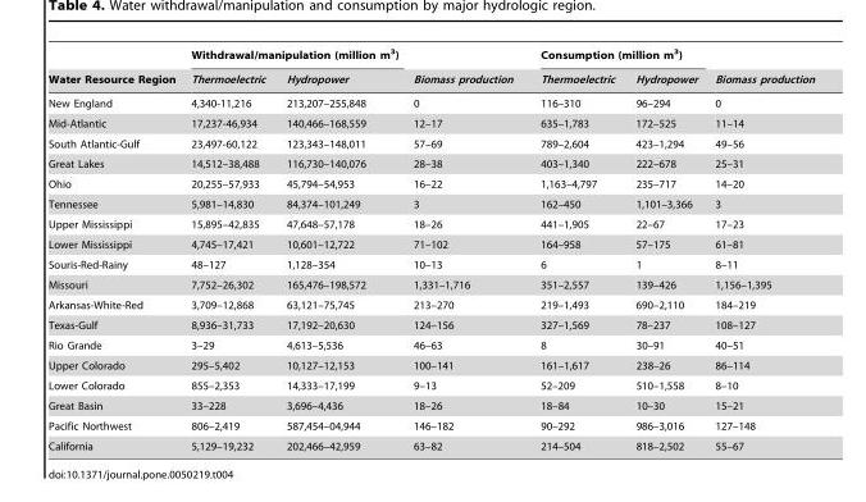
<table><thead><tr><td rowspan="2">Water Resource Region</td><td colspan="2">Withdrawal/manipulation (million m<sup>3</sup>)</td><td rowspan="2">Biomass production</td><td colspan="2">Consumption (million m<sup>3</sup>)</td><td rowspan="2">Biomass production</td></tr><tr><td>Thermoelectric</td><td>Hydropower</td><td>Thermoelectric</td><td>Hydropower</td></tr></thead><tbody><tr><td>New England</td><td>4,340-11,216</td><td>213,207–255,848</td><td>0</td><td>116–310</td><td>96–294</td><td>0</td></tr><tr><td>Mid-Atlantic</td><td>17,237-46,934</td><td>140,466–168,559</td><td>12–17</td><td>635–1,783</td><td>172–525</td><td>11–14</td></tr><tr><td>South Atlantic-Gulf</td><td>23,497-60,122</td><td>123,343–148,011</td><td>57–69</td><td>789–2,604</td><td>423–1,294</td><td>49–56</td></tr><tr><td>Great Lakes</td><td>14,512–38,488</td><td>116,730–140,076</td><td>28–38</td><td>403–1,340</td><td>222–678</td><td>25–31</td></tr><tr><td>Ohio</td><td>20,255–57,933</td><td>45,794–54,953</td><td>16–22</td><td>1,163–4,797</td><td>235–717</td><td>14–20</td></tr><tr><td>Tennessee</td><td>5,981–14,830</td><td>84,374–101,249</td><td>3</td><td>162–450</td><td>1,101–3,366</td><td>3</td></tr><tr><td>Upper Mississippi</td><td>15,895–42,835</td><td>47,648–57,178</td><td>18–26</td><td>441–1,905</td><td>22–67</td><td>17–23</td></tr><tr><td>Lower Mississippi</td><td>4,745–17,421</td><td>10,601–12,722</td><td>71–102</td><td>164–958</td><td>57–175</td><td>61–81</td></tr><tr><td>Souris-Red-Rainy</td><td>48–127</td><td>1,128–354</td><td>10–13</td><td>6</td><td>1</td><td>8–11</td></tr><tr><td>Missouri</td><td>7,752–26,302</td><td>165,476–198,572</td><td>1,331–1,716</td><td>351–2,557</td><td>139–426</td><td>1,156–1,395</td></tr><tr><td>Arkansas-White-Red</td><td>3,709–12,868</td><td>63,121–75,745</td><td>213–270</td><td>219–1,493</td><td>690–2,110</td><td>184–219</td></tr><tr><td>Texas-Gulf</td><td>8,936–31,733</td><td>17,192–20,630</td><td>124–156</td><td>327–1,569</td><td>78–237</td><td>108–127</td></tr><tr><td>Rio Grande</td><td>3–29</td><td>4,613–5,536</td><td>46–63</td><td>8</td><td>30–91</td><td>40–51</td></tr><tr><td>Upper Colorado</td><td>295–5,402</td><td>10,127–12,153</td><td>100–141</td><td>161–1,617</td><td>238–26</td><td>86–114</td></tr><tr><td>Lower Colorado</td><td>855–2,353</td><td>14,333–17,199</td><td>9–13</td><td>52–209</td><td>510–1,558</td><td>8–10</td></tr><tr><td>Great Basin</td><td>33–228</td><td>3,696–4,436</td><td>18–26</td><td>18–84</td><td>10–30</td><td>15–21</td></tr><tr><td>Pacific Northwest</td><td>806–2,419</td><td>587,454–04,944</td><td>146–182</td><td>90–292</td><td>986–3,016</td><td>127–148</td></tr><tr><td>California</td><td>5,129–19,232</td><td>202,466–42,959</td><td>63–82</td><td>214–504</td><td>818–2,502</td><td>55–67</td></tr></tbody></table>